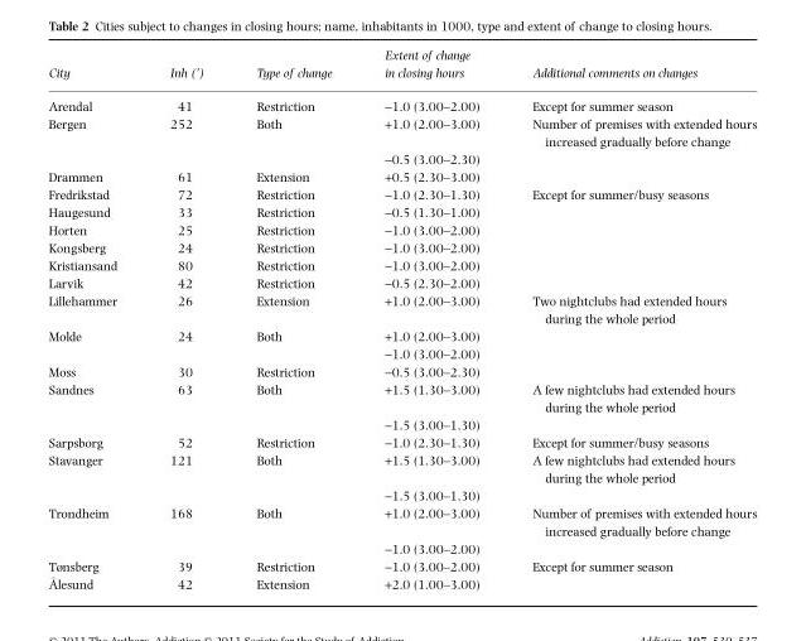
<table><thead><tr><td>City</td><td>Inh (’)</td><td>Type of change</td><td>Extent of change in closing hours</td><td>Additional comments on changes</td></tr></thead><tbody><tr><td>Arendal</td><td>41</td><td>Restriction</td><td>-1.0 (3.00–2.00)</td><td>Except for summer season</td></tr><tr><td rowspan="2">Bergen</td><td>252</td><td>Both</td><td>+1.0 (2.00–3.00)</td><td>Number of premises with extended hours increased gradually before change</td></tr><tr><td></td><td></td><td>-0.5 (3.00–2.30)</td><td></td></tr><tr><td>Drammen</td><td>61</td><td>Extension</td><td>+0.5 (2.30–3.00)</td><td></td></tr><tr><td>Fredrikstad</td><td>72</td><td>Restriction</td><td>-1.0 (2.30–1.30)</td><td>Except for summer/busy seasons</td></tr><tr><td>Haugesund</td><td>33</td><td>Restriction</td><td>-0.5 (1.30–1.00)</td><td></td></tr><tr><td>Horten</td><td>25</td><td>Restriction</td><td>-1.0 (3.00–2.00)</td><td></td></tr><tr><td>Kongsberg</td><td>24</td><td>Restriction</td><td>-1.0 (3.00–2.00)</td><td></td></tr><tr><td>Kristiansand</td><td>80</td><td>Restriction</td><td>-1.0 (3.00–2.00)</td><td></td></tr><tr><td>Larvik</td><td>42</td><td>Restriction</td><td>-0.5 (2.30–2.00)</td><td></td></tr><tr><td>Lillehammer</td><td>26</td><td>Extension</td><td>+1.0 (2.00–3.00)</td><td>Two nightclubs had extended hours during the whole period</td></tr><tr><td rowspan="2">Molde</td><td>24</td><td>Both</td><td>+1.0 (2.00–3.00)</td><td></td></tr><tr><td></td><td></td><td>-1.0 (3.00–2.00)</td><td></td></tr><tr><td>Moss</td><td>30</td><td>Restriction</td><td>-0.5 (3.00–2.30)</td><td></td></tr><tr><td rowspan="2">Sandnes</td><td>63</td><td>Both</td><td>+1.5 (1.30–3.00)</td><td>A few nightclubs had extended hours during the whole period</td></tr><tr><td></td><td></td><td>-1.5 (3.00–1.30)</td><td></td></tr><tr><td>Sarpsborg</td><td>52</td><td>Restriction</td><td>-1.0 (2.30–1.30)</td><td>Except for summer/busy seasons</td></tr><tr><td rowspan="2">Stavanger</td><td>121</td><td>Both</td><td>+1.5 (1.30–3.00)</td><td>A few nightclubs had extended hours during the whole period</td></tr><tr><td></td><td></td><td>-1.5 (3.00–1.30)</td><td></td></tr><tr><td rowspan="2">Trondheim</td><td>168</td><td>Both</td><td>+1.0 (2.00–3.00)</td><td>Number of premises with extended hours increased gradually before change</td></tr><tr><td></td><td></td><td>-1.0 (3.00–2.00)</td><td></td></tr><tr><td>Tønsberg</td><td>39</td><td>Restriction</td><td>-1.0 (3.00–2.00)</td><td>Except for summer season</td></tr><tr><td>Ålesund</td><td>42</td><td>Extension</td><td>+2.0 (1.00–3.00)</td><td></td></tr></tbody></table>